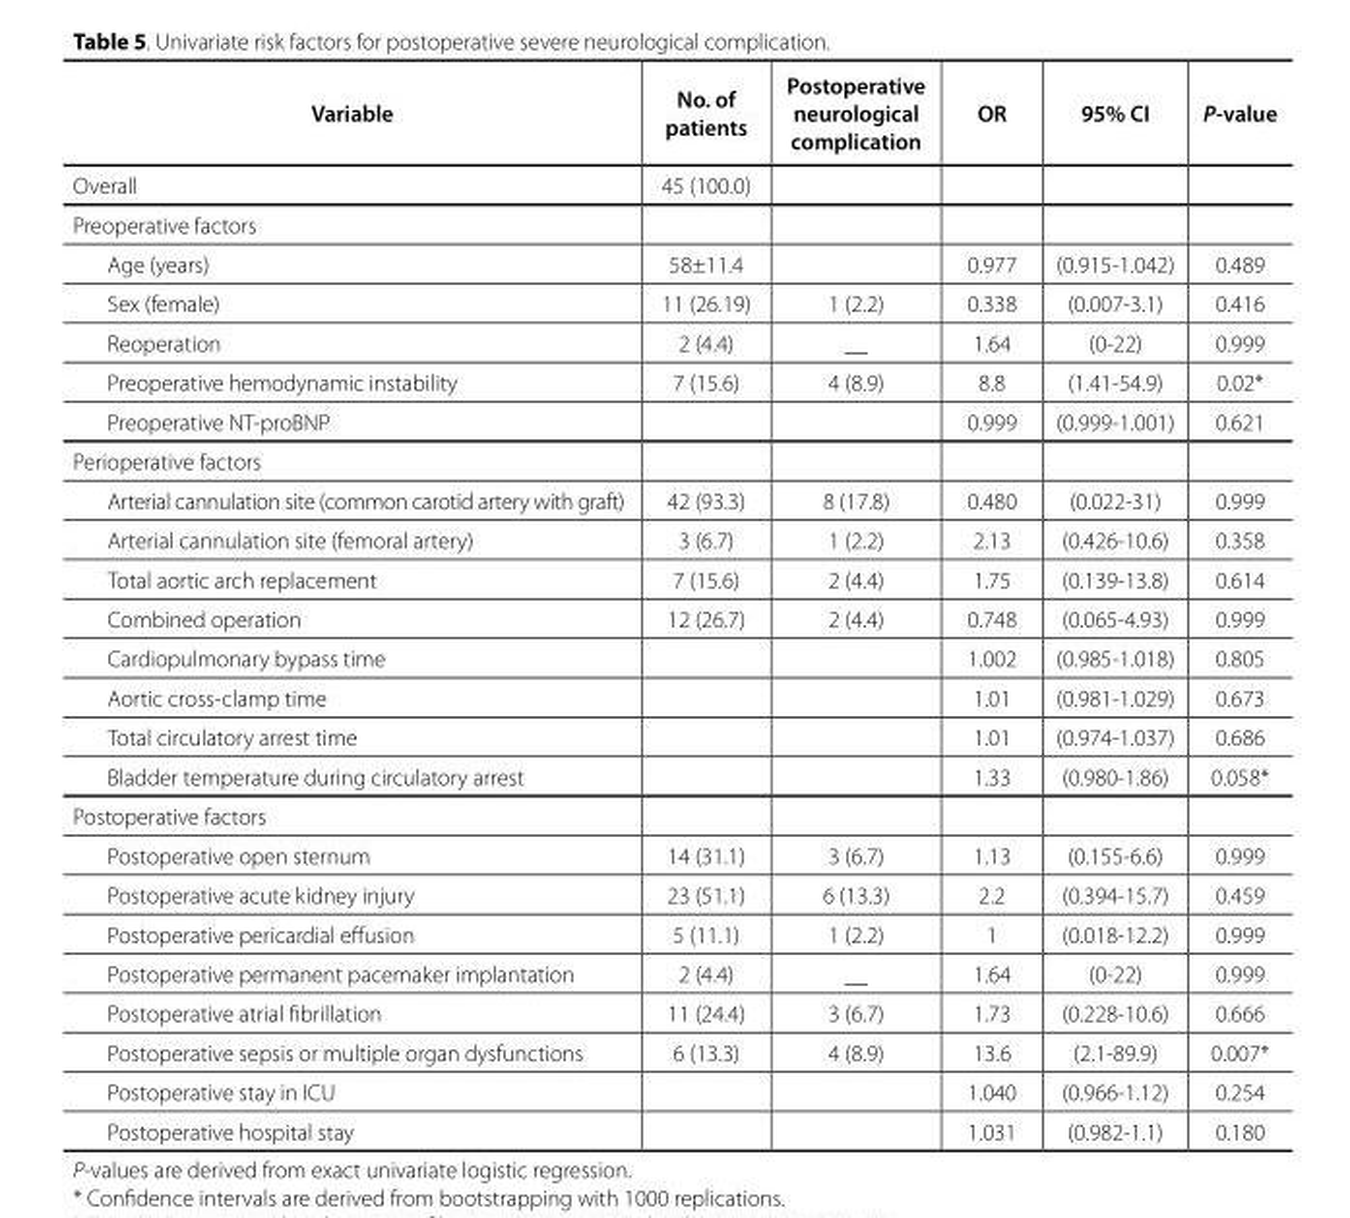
<table><thead><tr><td>Variable</td><td>No. of patients</td><td>Postoperative neurological complication</td><td>OR</td><td>95% CI</td><td>P-value</td></tr></thead><tbody><tr><td>Overall</td><td>45 (100.0)</td><td></td><td></td><td></td><td></td></tr><tr><td colspan="6">Preoperative factors</td></tr><tr><td>Age (years)</td><td>58±11.4</td><td></td><td>0.977</td><td>(0.915-1.042)</td><td>0.489</td></tr><tr><td>Sex (female)</td><td>11 (26.19)</td><td>1 (2.2)</td><td>0.338</td><td>(0.007-3.1)</td><td>0.416</td></tr><tr><td>Reoperation</td><td>2 (4.4)</td><td>__</td><td>1.64</td><td>(0-22)</td><td>0.999</td></tr><tr><td>Preoperative hemodynamic instability</td><td>7 (15.6)</td><td>4 (8.9)</td><td>8.8</td><td>(1.41-54.9)</td><td>0.02*</td></tr><tr><td>Preoperative NT-proBNP</td><td></td><td></td><td>0.999</td><td>(0.999-1.001)</td><td>0.621</td></tr><tr><td colspan="6">Perioperative factors</td></tr><tr><td>Arterial cannulation site (common carotid artery with graft)</td><td>42 (93.3)</td><td>8 (17.8)</td><td>0.480</td><td>(0.022-31)</td><td>0.999</td></tr><tr><td>Arterial cannulation site (femoral artery)</td><td>3 (6.7)</td><td>1 (2.2)</td><td>2.13</td><td>(0.426-10.6)</td><td>0.358</td></tr><tr><td>Total aortic arch replacement</td><td>7 (15.6)</td><td>2 (4.4)</td><td>1.75</td><td>(0.139-13.8)</td><td>0.614</td></tr><tr><td>Combined operation</td><td>12 (26.7)</td><td>2 (4.4)</td><td>0.748</td><td>(0.065-4.93)</td><td>0.999</td></tr><tr><td>Cardiopulmonary bypass time</td><td></td><td></td><td>1.002</td><td>(0.985-1.018)</td><td>0.805</td></tr><tr><td>Aortic cross-clamp time</td><td></td><td></td><td>1.01</td><td>(0.981-1.029)</td><td>0.673</td></tr><tr><td>Total circulatory arrest time</td><td></td><td></td><td>1.01</td><td>(0.974-1.037)</td><td>0.686</td></tr><tr><td>Bladder temperature during circulatory arrest</td><td></td><td></td><td>1.33</td><td>(0.980-1.86)</td><td>0.058*</td></tr><tr><td colspan="6">Postoperative factors</td></tr><tr><td>Postoperative open sternum</td><td>14 (31.1)</td><td>3 (6.7)</td><td>1.13</td><td>(0.155-6.6)</td><td>0.999</td></tr><tr><td>Postoperative acute kidney injury</td><td>23 (51.1)</td><td>6 (13.3)</td><td>2.2</td><td>(0.394-15.7)</td><td>0.459</td></tr><tr><td>Postoperative pericardial effusion</td><td>5 (11.1)</td><td>1 (2.2)</td><td>1</td><td>(0.018-12.2)</td><td>0.999</td></tr><tr><td>Postoperative permanent pacemaker implantation</td><td>2 (4.4)</td><td>__</td><td>1.64</td><td>(0-22)</td><td>0.999</td></tr><tr><td>Postoperative atrial fibrillation</td><td>11 (24.4)</td><td>3 (6.7)</td><td>1.73</td><td>(0.228-10.6)</td><td>0.666</td></tr><tr><td>Postoperative sepsis or multiple organ dysfunctions</td><td>6 (13.3)</td><td>4 (8.9)</td><td>13.6</td><td>(2.1-89.9)</td><td>0.007*</td></tr><tr><td>Postoperative stay in ICU</td><td></td><td></td><td>1.040</td><td>(0.966-1.12)</td><td>0.254</td></tr><tr><td>Postoperative hospital stay</td><td></td><td></td><td>1.031</td><td>(0.982-1.1)</td><td>0.180</td></tr></tbody></table>